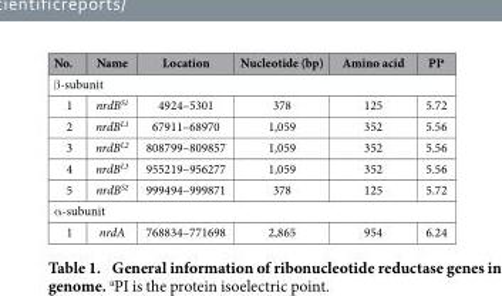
<table><thead><tr><td>No.</td><td>Name</td><td>Location</td><td>Nucleotide (bp)</td><td>Amino acid</td><td>PI<sup>a</sup></td></tr></thead><tbody><tr><td colspan="6">β -subunit</td></tr><tr><td>1</td><td>nrdB<sup>S1</sup></td><td>4924–5301</td><td>378</td><td>125</td><td>5.72</td></tr><tr><td>2</td><td>nrdB<sup>L1</sup></td><td>67911–68970</td><td>1,059</td><td>352</td><td>5.56</td></tr><tr><td>3</td><td>nrdB<sup>L2</sup></td><td>808799–809857</td><td>1,059</td><td>352</td><td>5.56</td></tr><tr><td>4</td><td>nrdB<sup>L3</sup></td><td>955219–956277</td><td>1,059</td><td>352</td><td>5.56</td></tr><tr><td>5</td><td>nrdB<sup>S2</sup></td><td>999494–999871</td><td>378</td><td>125</td><td>5.72</td></tr><tr><td colspan="6">α -subunit</td></tr><tr><td>1</td><td>nrdA</td><td>768834–771698</td><td>2,865</td><td>954</td><td>6.24</td></tr></tbody></table>